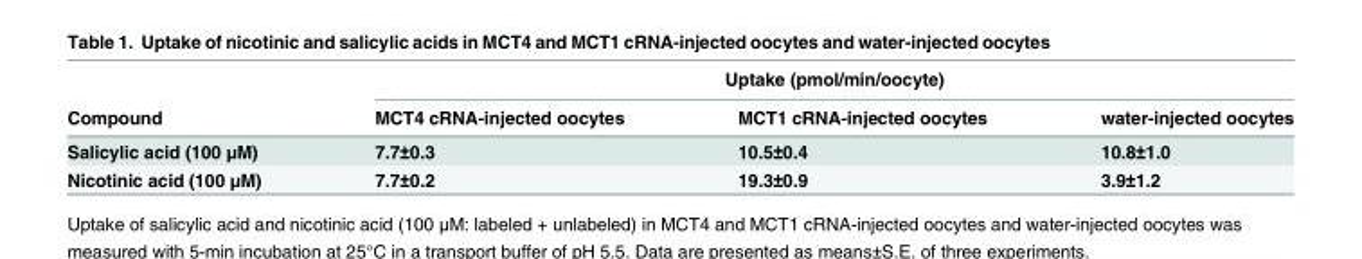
<table><thead><tr><td rowspan="2">Compound</td><td colspan="3">Uptake (pmol/min/oocyte)</td></tr><tr><td>MCT4 cRNA-injected oocytes</td><td>MCT1 cRNA-injected oocytes</td><td>water-injected oocytes</td></tr></thead><tbody><tr><td>Salicylic acid (100 μM)</td><td>7.7±0.3</td><td>10.5±0.4</td><td>10.8±1.0</td></tr><tr><td>Nicotinic acid (100 μM)</td><td>7.7±0.2</td><td>19.3±0.9</td><td>3.9±1.2</td></tr></tbody></table>